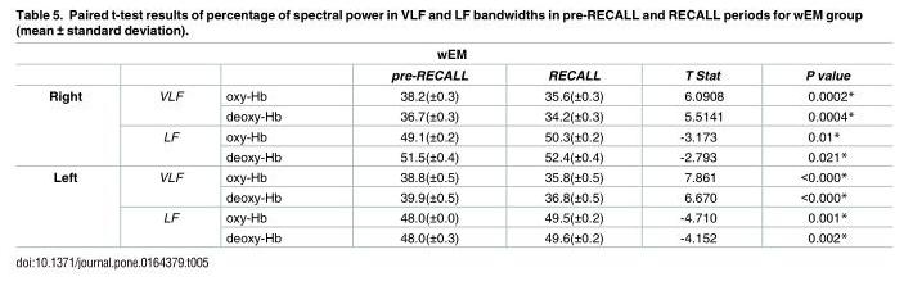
<table><thead><tr><td colspan="7">wEM</td></tr><tr><td></td><td></td><td></td><td>pre-RECALL</td><td>RECALL</td><td>T Stat</td><td>P value</td></tr></thead><tbody><tr><td rowspan="4">Right</td><td rowspan="2">VLF</td><td>oxy-Hb</td><td>38.2(±0.3)</td><td>35.6(±0.3)</td><td>6.0908</td><td>0.0002*</td></tr><tr><td>deoxy-Hb</td><td>36.7(±0.3)</td><td>34.2(±0.3)</td><td>5.5141</td><td>0.0004*</td></tr><tr><td rowspan="2">LF</td><td>oxy-Hb</td><td>49.1(±0.2)</td><td>50.3(±0.2)</td><td>-3.173</td><td>0.01*</td></tr><tr><td>deoxy-Hb</td><td>51.5(±0.4)</td><td>52.4(±0.4)</td><td>-2.793</td><td>0.021*</td></tr><tr><td rowspan="4">Left</td><td rowspan="2">VLF</td><td>oxy-Hb</td><td>38.8(±0.5)</td><td>35.8(±0.5)</td><td>7.861</td><td>&lt;0.000*</td></tr><tr><td>deoxy-Hb</td><td>39.9(±0.5)</td><td>36.8(±0.5)</td><td>6.670</td><td>&lt;0.000*</td></tr><tr><td rowspan="2">LF</td><td>oxy-Hb</td><td>48.0(±0.0)</td><td>49.5(±0.2)</td><td>-4.710</td><td>0.001*</td></tr><tr><td>deoxy-Hb</td><td>48.0(±0.3)</td><td>49.6(±0.2)</td><td>-4.152</td><td>0.002*</td></tr></tbody></table>